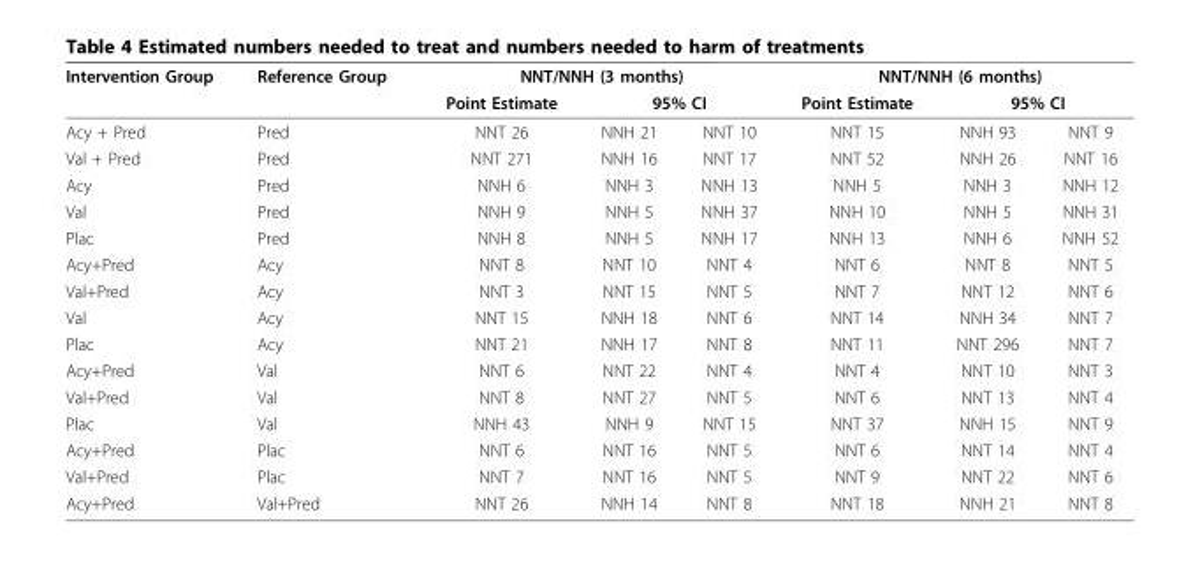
<table><thead><tr><td rowspan="3">Intervention Group Acy + Pred</td><td rowspan="3">Reference Group Pred</td><td colspan="3">NNT/NNH (3 months)</td><td colspan="3">NNT/NNH (6 months)</td></tr><tr><td rowspan="2">Point Estimate NNT 26</td><td colspan="2">95% CI</td><td rowspan="2">Point Estimate NNT 15</td><td colspan="2">95% CI</td></tr><tr><td>NNH 21</td><td>NNT 10</td><td>NNH 93</td><td>NNT 9</td></tr></thead><tbody><tr><td>Val + Pred</td><td>Pred</td><td>NNT 271</td><td>NNH 16</td><td>NNT 17</td><td>NNT 52</td><td>NNH 26</td><td>NNT 16</td></tr><tr><td>Acy</td><td>Pred</td><td>NNH 6</td><td>NNH 3</td><td>NNH 13</td><td>NNH 5</td><td>NNH 3</td><td>NNH 12</td></tr><tr><td>Val</td><td>Pred</td><td>NNH 9</td><td>NNH 5</td><td>NNH 37</td><td>NNH 10</td><td>NNH 5</td><td>NNH 31</td></tr><tr><td>Plac</td><td>Pred</td><td>NNH 8</td><td>NNH 5</td><td>NNH 17</td><td>NNH 13</td><td>NNH 6</td><td>NNH 52</td></tr><tr><td>Acy+Pred</td><td>Acy</td><td>NNT 8</td><td>NNT 10</td><td>NNT 4</td><td>NNT 6</td><td>NNT 8</td><td>NNT 5</td></tr><tr><td>Val+Pred</td><td>Acy</td><td>NNT 3</td><td>NNT 15</td><td>NNT 5</td><td>NNT 7</td><td>NNT 12</td><td>NNT 6</td></tr><tr><td>Val</td><td>Acy</td><td>NNT 15</td><td>NNH 18</td><td>NNT 6</td><td>NNT 14</td><td>NNH 34</td><td>NNT 7</td></tr><tr><td>Plac</td><td>Acy</td><td>NNT 21</td><td>NNH 17</td><td>NNT 8</td><td>NNT 11</td><td>NNT 296</td><td>NNT 7</td></tr><tr><td>Acy+Pred</td><td>Val</td><td>NNT 6</td><td>NNT 22</td><td>NNT 4</td><td>NNT 4</td><td>NNT 10</td><td>NNT 3</td></tr><tr><td>Val+Pred</td><td>Val</td><td>NNT 8</td><td>NNT 27</td><td>NNT 5</td><td>NNT 6</td><td>NNT 13</td><td>NNT 4</td></tr><tr><td>Plac</td><td>Val</td><td>NNH 43</td><td>NNH 9</td><td>NNT 15</td><td>NNT 37</td><td>NNH 15</td><td>NNT 9</td></tr><tr><td>Acy+Pred</td><td>Plac</td><td>NNT 6</td><td>NNT 16</td><td>NNT 5</td><td>NNT 6</td><td>NNT 14</td><td>NNT 4</td></tr><tr><td>Val+Pred</td><td>Plac</td><td>NNT 7</td><td>NNT 16</td><td>NNT 5</td><td>NNT 9</td><td>NNT 22</td><td>NNT 6</td></tr><tr><td>Acy+Pred</td><td>Val+Pred</td><td>NNT 26</td><td>NNH 14</td><td>NNT 8</td><td>NNT 18</td><td>NNH 21</td><td>NNT 8</td></tr></tbody></table>